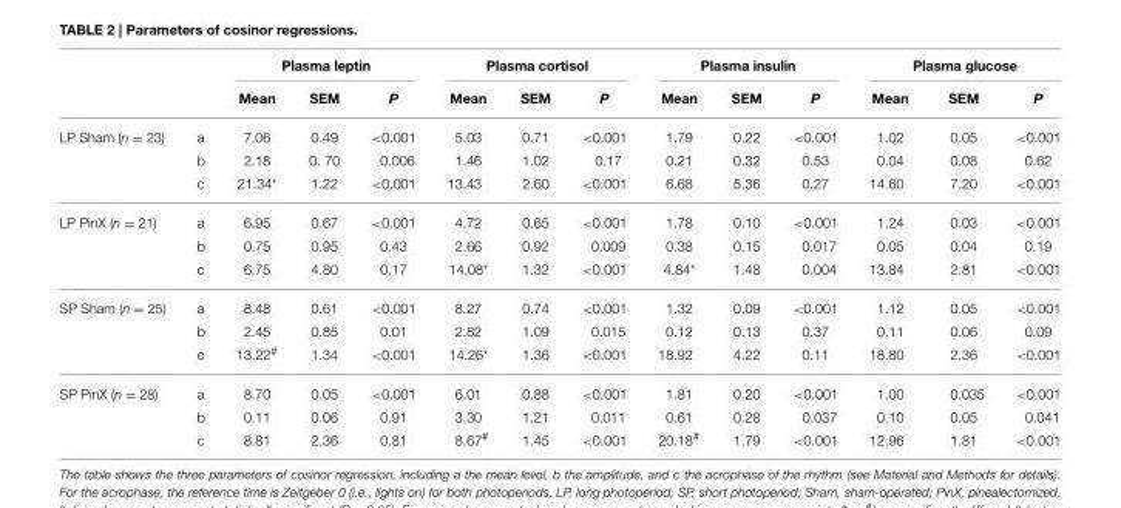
<table><thead><tr><td rowspan="2"></td><td rowspan="2"></td><td colspan="3">Plasma leptin</td><td colspan="3">Plasma cortisol</td><td colspan="3">Plasma insulin</td><td colspan="3">Plasma glucose</td></tr><tr><td>Mean</td><td>SEM</td><td>P</td><td>Mean</td><td>SEM</td><td>P</td><td>Mean</td><td>SEM</td><td>P</td><td>Mean</td><td>SEM</td><td>P</td></tr></thead><tbody><tr><td rowspan="3">LP Sham (n = 23)</td><td>a</td><td>7.06</td><td>0.49</td><td>&lt;0.001</td><td>5.03</td><td>0.71</td><td>&lt;0.001</td><td>1.79</td><td>0.22</td><td>&lt;0.001</td><td>1.02</td><td>0.05</td><td>&lt;0.001</td></tr><tr><td>b</td><td>2.18</td><td>0. 70</td><td>0.006</td><td>1.46</td><td>1.02</td><td>0.17</td><td>0.21</td><td>0.32</td><td>0.53</td><td>0.04</td><td>0.08</td><td>0.62</td></tr><tr><td>c</td><td>21.34*</td><td>1.22</td><td>&lt;0.001</td><td>13.43</td><td>2.60</td><td>&lt;0.001</td><td>6.68</td><td>5.36</td><td>0.27</td><td>14.60</td><td>7.20</td><td>&lt;0.001</td></tr><tr><td rowspan="3">LP PinX (n = 21)</td><td>a</td><td>6.95</td><td>0.67</td><td>&lt;0.001</td><td>4.72</td><td>0.65</td><td>&lt;0.001</td><td>1.78</td><td>0.10</td><td>&lt;0.001</td><td>1.24</td><td>0.03</td><td>&lt;0.001</td></tr><tr><td>b</td><td>0.75</td><td>0.95</td><td>0.43</td><td>2.66</td><td>0.92</td><td>0.009</td><td>0.38</td><td>0.15</td><td>0.017</td><td>0.05</td><td>0.04</td><td>0.19</td></tr><tr><td>c</td><td>6.75</td><td>4.80</td><td>0.17</td><td>14.08*</td><td>1.32</td><td>&lt;0.001</td><td>4.84*</td><td>1.48</td><td>0.004</td><td>13.84</td><td>2.81</td><td>&lt;0.001</td></tr><tr><td rowspan="3">SP Sham (n = 25)</td><td>a</td><td>8.48</td><td>0.61</td><td>&lt;0.001</td><td>8.27</td><td>0.74</td><td>&lt;0.001</td><td>1.32</td><td>0.09</td><td>&lt;0.001</td><td>1.12</td><td>0.05</td><td>&lt;0.001</td></tr><tr><td>b</td><td>2.45</td><td>0.85</td><td>0.01</td><td>2.82</td><td>1.09</td><td>0.015</td><td>0.12</td><td>0.13</td><td>0.37</td><td>0.11</td><td>0.06</td><td>0.09</td></tr><tr><td>c</td><td>13.22<sup>#</sup></td><td>1.34</td><td>&lt;0.001</td><td>14.26*</td><td>1.36</td><td>&lt;0.001</td><td>18.92</td><td>4.22</td><td>0.11</td><td>18.80</td><td>2.36</td><td>&lt;0.001</td></tr><tr><td rowspan="3">SP PinX (n = 28)</td><td>a</td><td>8.70</td><td>0.05</td><td>&lt;0.001</td><td>6.01</td><td>0.88</td><td>&lt;0.001</td><td>1.81</td><td>0.20</td><td>&lt;0.001</td><td>1.00</td><td>0.035</td><td>&lt;0.001</td></tr><tr><td>b</td><td>0.11</td><td>0.06</td><td>0.91</td><td>3.30</td><td>1.21</td><td>0.011</td><td>0.61</td><td>0.28</td><td>0.037</td><td>0.10</td><td>0.05</td><td>0.041</td></tr><tr><td>c</td><td>8.81</td><td>2.36</td><td>0.81</td><td>8.67<sup>#</sup></td><td>1.45</td><td>&lt;0.001</td><td>20.18<sup>#</sup></td><td>1.79</td><td>&lt;0.001</td><td>12.96</td><td>1.81</td><td>&lt;0.001</td></tr></tbody></table>